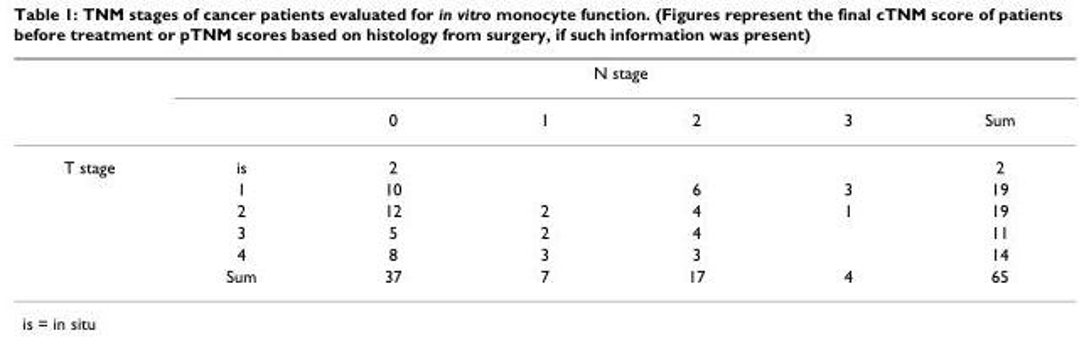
<table><thead><tr><td rowspan="2"></td><td colspan="6">N stage</td></tr><tr><td></td><td>0</td><td>1</td><td>2</td><td>3</td><td>Sum</td></tr></thead><tbody><tr><td rowspan="6">T stage</td><td>is</td><td>2</td><td></td><td></td><td></td><td>2</td></tr><tr><td>1</td><td>10</td><td></td><td>6</td><td>3</td><td>19</td></tr><tr><td>2</td><td>12</td><td>2</td><td>4</td><td>1</td><td>19</td></tr><tr><td>3</td><td>5</td><td>2</td><td>4</td><td></td><td>11</td></tr><tr><td>4</td><td>8</td><td>3</td><td>3</td><td></td><td>14</td></tr><tr><td>Sum</td><td>37</td><td>7</td><td>17</td><td>4</td><td>65</td></tr></tbody></table>